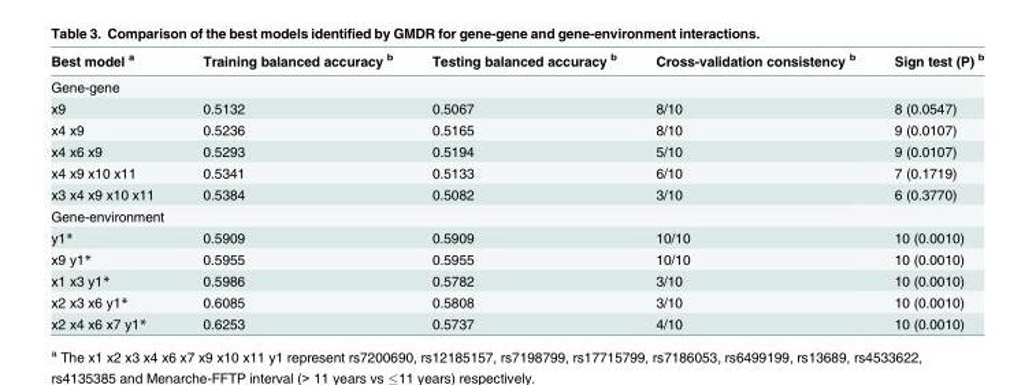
<table><thead><tr><td>Best model <sup>a</sup></td><td>Training balanced accuracy <sup>b</sup></td><td>Testing balanced accuracy <sup>b</sup></td><td>Cross-validation consistency <sup>b</sup></td><td>Sign test (P) <sup>b</sup></td></tr></thead><tbody><tr><td colspan="5">Gene-gene</td></tr><tr><td>x9</td><td>0.5132</td><td>0.5067</td><td>8/10</td><td>8 (0.0547)</td></tr><tr><td>x4 x9</td><td>0.5236</td><td>0.5165</td><td>8/10</td><td>9 (0.0107)</td></tr><tr><td>x4 x6 x9</td><td>0.5293</td><td>0.5194</td><td>5/10</td><td>9 (0.0107)</td></tr><tr><td>x4 x9 x10 x11</td><td>0.5341</td><td>0.5133</td><td>6/10</td><td>7 (0.1719)</td></tr><tr><td>x3 x4 x9 x10 x11</td><td>0.5384</td><td>0.5082</td><td>3/10</td><td>6 (0.3770)</td></tr><tr><td colspan="5">Gene-environment</td></tr><tr><td>y1*</td><td>0.5909</td><td>0.5909</td><td>10/10</td><td>10 (0.0010)</td></tr><tr><td>x9 y1*</td><td>0.5955</td><td>0.5955</td><td>10/10</td><td>10 (0.0010)</td></tr><tr><td>x1 x3 y1*</td><td>0.5986</td><td>0.5782</td><td>3/10</td><td>10 (0.0010)</td></tr><tr><td>x2 x3 x6 y1*</td><td>0.6085</td><td>0.5808</td><td>3/10</td><td>10 (0.0010)</td></tr><tr><td>x2 x4 x6 x7 y1*</td><td>0.6253</td><td>0.5737</td><td>4/10</td><td>10 (0.0010)</td></tr></tbody></table>